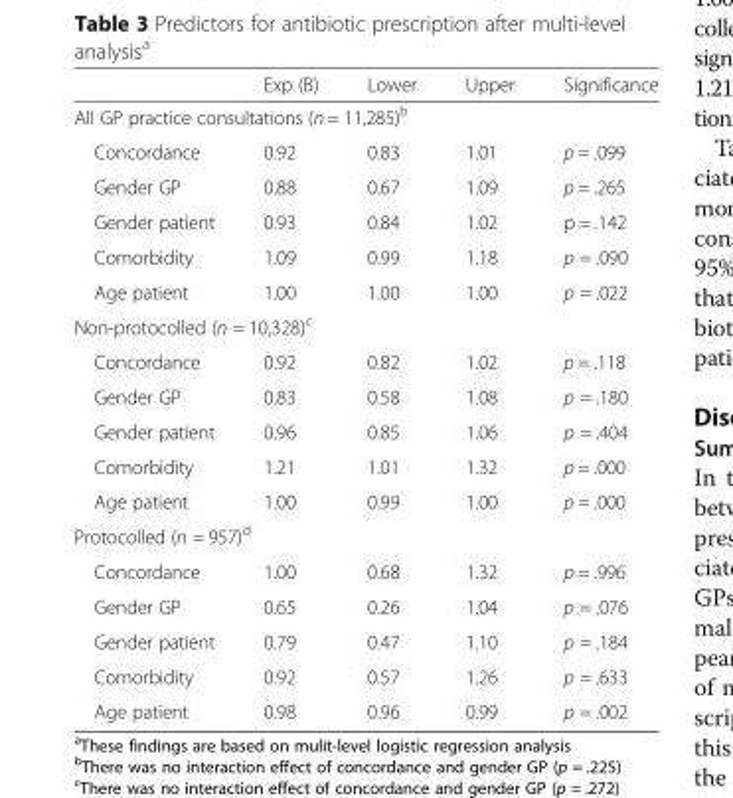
<table><thead><tr><td></td><td>Exp (B)</td><td>Lower</td><td>Upper</td><td>Significance</td></tr></thead><tbody><tr><td colspan="5">All GP practice consultations (n = 11,285)<sup>b</sup></td></tr><tr><td>Concordance</td><td>0.92</td><td>0.83</td><td>1.01</td><td>p = .099</td></tr><tr><td>Gender GP</td><td>0.88</td><td>0.67</td><td>1.09</td><td>p = .265</td></tr><tr><td>Gender patient</td><td>0.93</td><td>0.84</td><td>1.02</td><td>p = .142</td></tr><tr><td>Comorbidity</td><td>1.09</td><td>0.99</td><td>1.18</td><td>p = .090</td></tr><tr><td>Age patient</td><td>1.00</td><td>1.00</td><td>1.00</td><td>p = .022</td></tr><tr><td colspan="5">Non-protocolled (n = 10,328)<sup>c</sup></td></tr><tr><td>Concordance</td><td>0.92</td><td>0.82</td><td>1.02</td><td>p = .118</td></tr><tr><td>Gender GP</td><td>0.83</td><td>0.58</td><td>1.08</td><td>p = .180</td></tr><tr><td>Gender patient</td><td>0.96</td><td>0.85</td><td>1.06</td><td>p = .404</td></tr><tr><td>Comorbidity</td><td>1.21</td><td>1.01</td><td>1.32</td><td>p = .000</td></tr><tr><td>Age patient</td><td>1.00</td><td>0.99</td><td>1.00</td><td>p = .000</td></tr><tr><td colspan="5">Protocolled (n = 957)<sup>d</sup></td></tr><tr><td>Concordance</td><td>1.00</td><td>0.68</td><td>1.32</td><td>p = .996</td></tr><tr><td>Gender GP</td><td>0.65</td><td>0.26</td><td>1.04</td><td>p = .076</td></tr><tr><td>Gender patient</td><td>0.79</td><td>0.47</td><td>1.10</td><td>p = .184</td></tr><tr><td>Comorbidity</td><td>0.92</td><td>0.57</td><td>1.26</td><td>p = .633</td></tr><tr><td>Age patient</td><td>0.98</td><td>0.96</td><td>0.99</td><td>p = .002</td></tr></tbody></table>